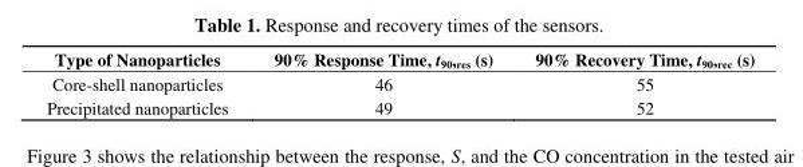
<table><thead><tr><td>Type of Nanoparticles</td><td>90% Response Time, t<sub>90,res</sub> (s)</td><td>90% Recovery Time, t<sub>90,rec</sub> (s)</td></tr></thead><tbody><tr><td>Core-shell nanoparticles</td><td>46</td><td>55</td></tr><tr><td>Precipitated nanoparticles</td><td>49</td><td>52</td></tr></tbody></table>